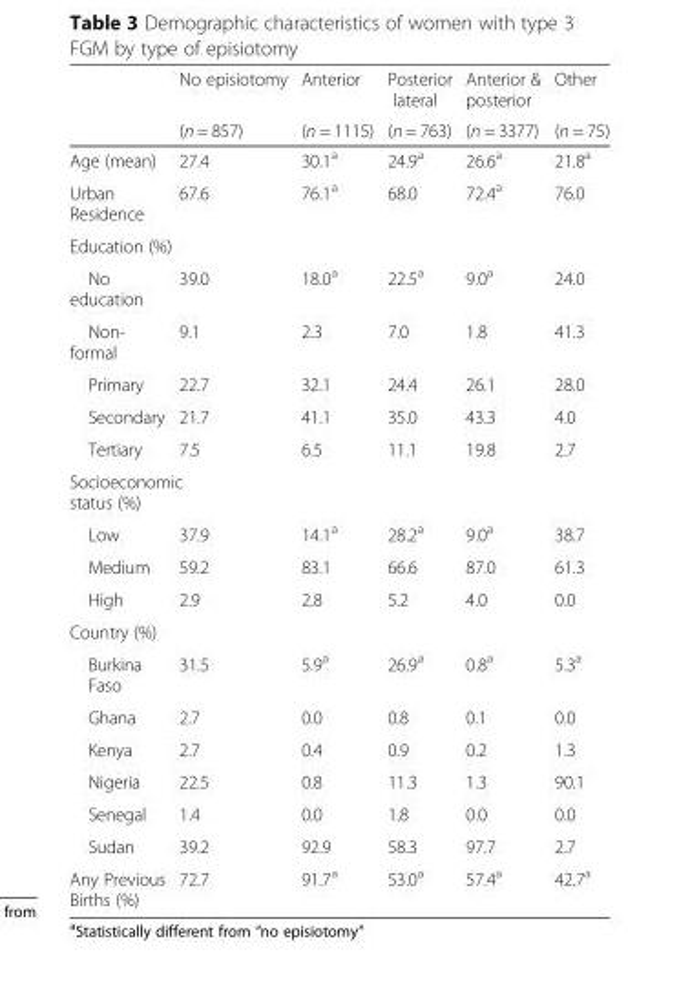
<table><thead><tr><td rowspan="2"></td><td rowspan="2">No episiotomy (n = 857)</td><td rowspan="2">Anterior (n = 1115)</td><td rowspan="2">Posterior lateral (n = 763)</td><td rowspan="2">Anterior &amp; posterior (n = 3377)</td><td rowspan="2">Other (n = 75)</td></tr><tr></tr></thead><tbody><tr><td>Age (mean)</td><td>27.4</td><td>30.1<sup>a</sup></td><td>24.9<sup>a</sup></td><td>26.6<sup>a</sup></td><td>21.8<sup>a</sup></td></tr><tr><td>Urban Residence</td><td>67.6</td><td>76.1<sup>a</sup></td><td>68.0</td><td>72.4<sup>a</sup></td><td>76.0</td></tr><tr><td colspan="6">Education (%)</td></tr><tr><td>No education</td><td>39.0</td><td>18.0<sup>a</sup></td><td>22.5<sup>a</sup></td><td>9.0<sup>a</sup></td><td>24.0</td></tr><tr><td>Non- formal</td><td>9.1</td><td>2.3</td><td>7.0</td><td>1.8</td><td>41.3</td></tr><tr><td>Primary</td><td>22.7</td><td>32.1</td><td>24.4</td><td>26.1</td><td>28.0</td></tr><tr><td>Secondary</td><td>21.7</td><td>41.1</td><td>35.0</td><td>43.3</td><td>4.0</td></tr><tr><td>Tertiary</td><td>7.5</td><td>6.5</td><td>11.1</td><td>19.8</td><td>2.7</td></tr><tr><td colspan="6">Socioeconomic status (%)</td></tr><tr><td>Low</td><td>37.9</td><td>14.1<sup>a</sup></td><td>28.2<sup>a</sup></td><td>9.0<sup>a</sup></td><td>38.7</td></tr><tr><td>Medium</td><td>59.2</td><td>83.1</td><td>66.6</td><td>87.0</td><td>61.3</td></tr><tr><td>High</td><td>2.9</td><td>2.8</td><td>5.2</td><td>4.0</td><td>0.0</td></tr><tr><td colspan="6">Country (%)</td></tr><tr><td>Burkina Faso</td><td>31.5</td><td>5.9<sup>a</sup></td><td>26.9<sup>a</sup></td><td>0.8<sup>a</sup></td><td>5.3<sup>a</sup></td></tr><tr><td>Ghana</td><td>2.7</td><td>0.0</td><td>0.8</td><td>0.1</td><td>0.0</td></tr><tr><td>Kenya</td><td>2.7</td><td>0.4</td><td>0.9</td><td>0.2</td><td>1.3</td></tr><tr><td>Nigeria</td><td>22.5</td><td>0.8</td><td>11.3</td><td>1.3</td><td>90.1</td></tr><tr><td>Senegal</td><td>1.4</td><td>0.0</td><td>1.8</td><td>0.0</td><td>0.0</td></tr><tr><td>Sudan</td><td>39.2</td><td>92.9</td><td>58.3</td><td>97.7</td><td>2.7</td></tr><tr><td>Any Previous Births (%)</td><td>72.7</td><td>91.7<sup>a</sup></td><td>53.0<sup>a</sup></td><td>57.4<sup>a</sup></td><td>42.7<sup>a</sup></td></tr></tbody></table>